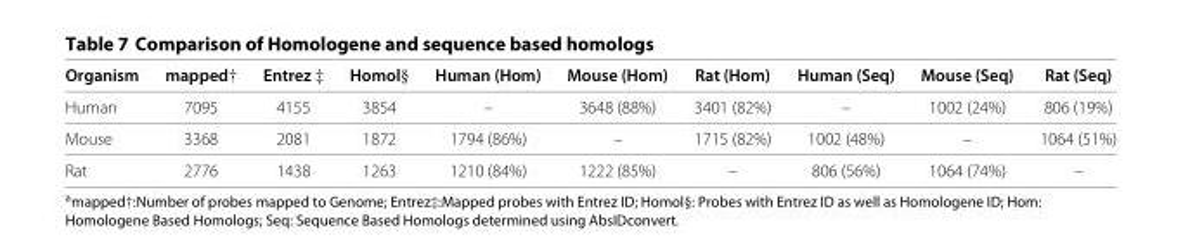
<table><thead><tr><td>Organism</td><td>mapped†</td><td>Entrez ‡</td><td>Homol§</td><td>Human (Hom)</td><td>Mouse (Hom)</td><td>Rat (Hom)</td><td>Human (Seq)</td><td>Mouse (Seq)</td><td>Rat (Seq)</td></tr></thead><tbody><tr><td>Human</td><td>7095</td><td>4155</td><td>3854</td><td>–</td><td>3648 (88%)</td><td>3401 (82%)</td><td>–</td><td>1002 (24%)</td><td>806 (19%)</td></tr><tr><td>Mouse</td><td>3368</td><td>2081</td><td>1872</td><td>1794 (86%)</td><td>–</td><td>1715 (82%)</td><td>1002 (48%)</td><td>–</td><td>1064 (51%)</td></tr><tr><td>Rat</td><td>2776</td><td>1438</td><td>1263</td><td>1210 (84%)</td><td>1222 (85%)</td><td>–</td><td>806 (56%)</td><td>1064 (74%)</td><td>–</td></tr></tbody></table>